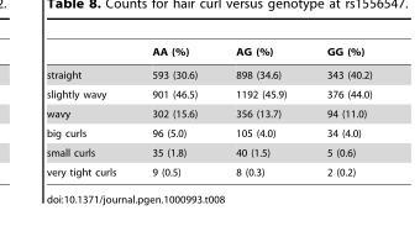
<table><thead><tr><td></td><td>AA (%)</td><td>AG (%)</td><td>GG (%)</td></tr></thead><tbody><tr><td>straight</td><td>593 (30.6)</td><td>898 (34.6)</td><td>343 (40.2)</td></tr><tr><td>slightly wavy</td><td>901 (46.5)</td><td>1192 (45.9)</td><td>376 (44.0)</td></tr><tr><td>wavy</td><td>302 (15.6)</td><td>356 (13.7)</td><td>94 (11.0)</td></tr><tr><td>big curls</td><td>96 (5.0)</td><td>105 (4.0)</td><td>34 (4.0)</td></tr><tr><td>small curls</td><td>35 (1.8)</td><td>40 (1.5)</td><td>5 (0.6)</td></tr><tr><td>very tight curls</td><td>9 (0.5)</td><td>8 (0.3)</td><td>2 (0.2)</td></tr></tbody></table>